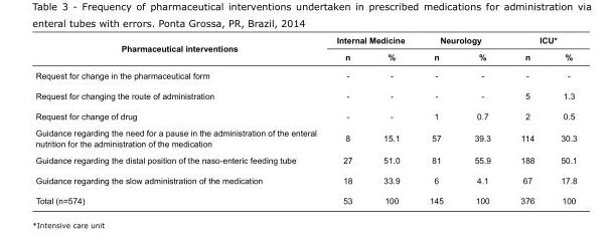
<table><tbody><tr><td rowspan="2">Pharmaceutical interventions</td><td colspan="2">Internal Medicine</td><td colspan="2">Neurology</td><td colspan="2">ICU*</td></tr><tr><td>n</td><td>%</td><td>n</td><td>%</td><td>n</td><td>%</td></tr><tr><td>Request for change in the pharmaceutical form</td><td>-</td><td>-</td><td>-</td><td>-</td><td>-</td><td>-</td></tr><tr><td>Request for changing the route of administration</td><td>-</td><td>-</td><td>-</td><td>-</td><td>5</td><td>1.3</td></tr><tr><td>Request for change of drug</td><td>-</td><td>-</td><td>1</td><td>0.7</td><td>2</td><td>0.5</td></tr><tr><td>Guidance regarding the need for a pause in the administration of the enteral nutrition for the administration of the medication</td><td>8</td><td>15.1</td><td>57</td><td>39.3</td><td>114</td><td>30.3</td></tr><tr><td>Guidance regarding the distal position of the naso-enteric feeding tube</td><td>27</td><td>51.0</td><td>81</td><td>55.9</td><td>188</td><td>50.1</td></tr><tr><td>Guidance regarding the slow administration of the medication</td><td>18</td><td>33.9</td><td>6</td><td>4.1</td><td>67</td><td>17.8</td></tr><tr><td>Total (n=574)</td><td>53</td><td>100</td><td>145</td><td>100</td><td>376</td><td>100</td></tr></tbody></table>